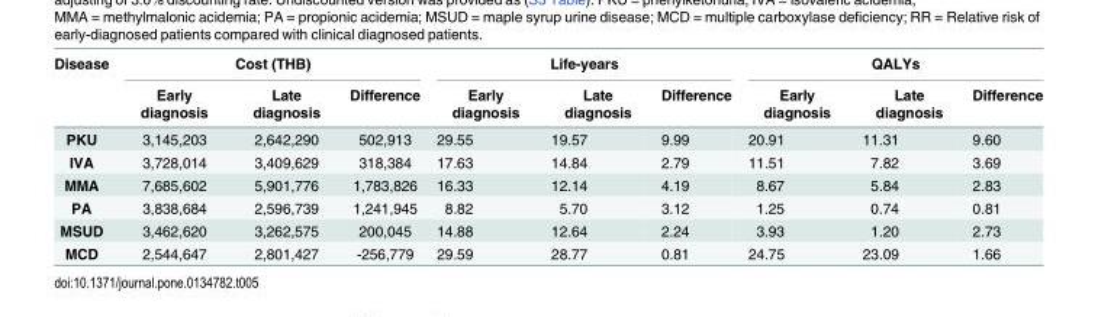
<table><thead><tr><td rowspan="2">Disease</td><td colspan="3">Cost (THB)</td><td colspan="3">Life-years</td><td colspan="3">QALYs</td></tr><tr><td>Early diagnosis</td><td>Late diagnosis</td><td>Difference</td><td>Early diagnosis</td><td>Late diagnosis</td><td>Difference</td><td>Early diagnosis</td><td>Late diagnosis</td><td>Difference</td></tr></thead><tbody><tr><td>PKU</td><td>3,145,203</td><td>2,642,290</td><td>502,913</td><td>29.55</td><td>19.57</td><td>9.99</td><td>20.91</td><td>11.31</td><td>9.60</td></tr><tr><td>IVA</td><td>3,728,014</td><td>3,409,629</td><td>318,384</td><td>17.63</td><td>14.84</td><td>2.79</td><td>11.51</td><td>7.82</td><td>3.69</td></tr><tr><td>MMA</td><td>7,685,602</td><td>5,901,776</td><td>1,783,826</td><td>16.33</td><td>12.14</td><td>4.19</td><td>8.67</td><td>5.84</td><td>2.83</td></tr><tr><td>PA</td><td>3,838,684</td><td>2,596,739</td><td>1,241,945</td><td>8.82</td><td>5.70</td><td>3.12</td><td>1.25</td><td>0.74</td><td>0.81</td></tr><tr><td>MSUD</td><td>3,462,620</td><td>3,262,575</td><td>200,045</td><td>14.88</td><td>12.64</td><td>2.24</td><td>3.93</td><td>1.20</td><td>2.73</td></tr><tr><td>MCD</td><td>2,544,647</td><td>2,801,427</td><td>-256,779</td><td>29.59</td><td>28.77</td><td>0.81</td><td>24.75</td><td>23.09</td><td>1.66</td></tr></tbody></table>